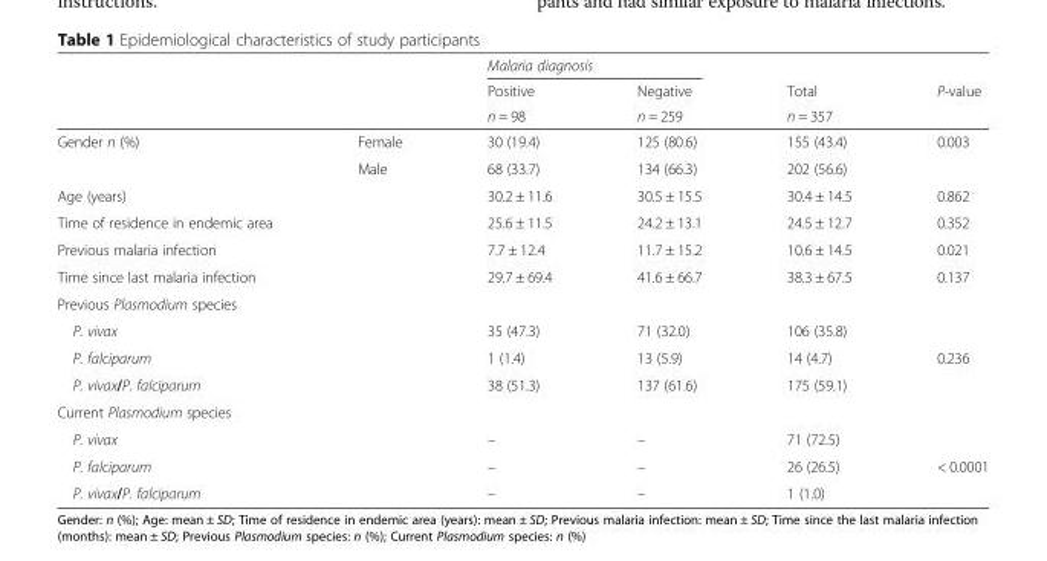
<table><thead><tr><td rowspan="3"></td><td rowspan="3"></td><td colspan="2">Malaria diagnosis</td><td rowspan="3">Total n = 357</td><td rowspan="3">P-value</td></tr><tr><td rowspan="2">Positive n = 98</td><td rowspan="2">Negative n = 259</td></tr><tr></tr></thead><tbody><tr><td rowspan="2">Gender n (%)</td><td>Female</td><td>30 (19.4)</td><td>125 (80.6)</td><td>155 (43.4)</td><td rowspan="2">0.003</td></tr><tr><td>Male</td><td>68 (33.7)</td><td>134 (66.3)</td><td>202 (56.6)</td></tr><tr><td>Age (years)</td><td></td><td>30.2 ± 11.6</td><td>30.5 ± 15.5</td><td>30.4 ± 14.5</td><td>0.862</td></tr><tr><td>Time of residence in endemic area</td><td></td><td>25.6 ± 11.5</td><td>24.2 ± 13.1</td><td>24.5 ± 12.7</td><td>0.352</td></tr><tr><td>Previous malaria infection</td><td></td><td>7.7 ± 12.4</td><td>11.7 ± 15.2</td><td>10.6 ± 14.5</td><td>0.021</td></tr><tr><td>Time since last malaria infection</td><td></td><td>29.7 ± 69.4</td><td>41.6 ± 66.7</td><td>38.3 ± 67.5</td><td>0.137</td></tr><tr><td colspan="6">Previous Plasmodium species</td></tr><tr><td>P. vivax</td><td></td><td>35 (47.3)</td><td>71 (32.0)</td><td>106 (35.8)</td><td></td></tr><tr><td>P. falciparum</td><td></td><td>1 (1.4)</td><td>13 (5.9)</td><td>14 (4.7)</td><td>0.236</td></tr><tr><td>P. vivax/P. falciparum</td><td></td><td>38 (51.3)</td><td>137 (61.6)</td><td>175 (59.1)</td><td></td></tr><tr><td colspan="6">Current Plasmodium species</td></tr><tr><td>P. vivax</td><td></td><td>–</td><td>–</td><td>71 (72.5)</td><td></td></tr><tr><td>P. falciparum</td><td></td><td>–</td><td>–</td><td>26 (26.5)</td><td>&lt; 0.0001</td></tr><tr><td>P. vivax/P. falciparum</td><td></td><td>–</td><td>–</td><td>1 (1.0)</td><td></td></tr></tbody></table>